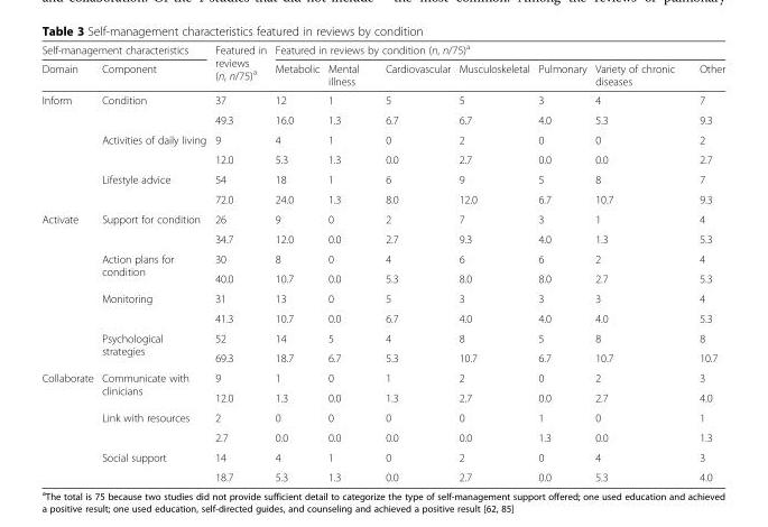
<table><thead><tr><td colspan="2">Self-management characteristics</td><td rowspan="2">Featured in reviews (n, n/75)<sup>a</sup></td><td colspan="7">Featured in reviews by condition (n, n/75)<sup>a</sup></td></tr><tr><td>Domain</td><td>Component</td><td>Metabolic</td><td>Mental illness</td><td>Cardiovascular</td><td>Musculoskeletal</td><td>Pulmonary</td><td>Variety of chronic diseases</td><td>Other</td></tr></thead><tbody><tr><td rowspan="6">Inform</td><td rowspan="2">Condition</td><td>37</td><td>12</td><td>1</td><td>5</td><td>5</td><td>3</td><td>4</td><td>7</td></tr><tr><td>49.3</td><td>16.0</td><td>1.3</td><td>6.7</td><td>6.7</td><td>4.0</td><td>5.3</td><td>9.3</td></tr><tr><td rowspan="2">Activities of daily living</td><td>9</td><td>4</td><td>1</td><td>0</td><td>2</td><td>0</td><td>0</td><td>2</td></tr><tr><td>12.0</td><td>5.3</td><td>1.3</td><td>0.0</td><td>2.7</td><td>0.0</td><td>0.0</td><td>2.7</td></tr><tr><td rowspan="2">Lifestyle advice</td><td>54</td><td>18</td><td>1</td><td>6</td><td>9</td><td>5</td><td>8</td><td>7</td></tr><tr><td>72.0</td><td>24.0</td><td>1.3</td><td>8.0</td><td>12.0</td><td>6.7</td><td>10.7</td><td>9.3</td></tr><tr><td rowspan="8">Activate</td><td rowspan="2">Support for condition</td><td>26</td><td>9</td><td>0</td><td>2</td><td>7</td><td>3</td><td>1</td><td>4</td></tr><tr><td>34.7</td><td>12.0</td><td>0.0</td><td>2.7</td><td>9.3</td><td>4.0</td><td>1.3</td><td>5.3</td></tr><tr><td rowspan="2">Action plans for condition</td><td>30</td><td>8</td><td>0</td><td>4</td><td>6</td><td>6</td><td>2</td><td>4</td></tr><tr><td>40.0</td><td>10.7</td><td>0.0</td><td>5.3</td><td>8.0</td><td>8.0</td><td>2.7</td><td>5.3</td></tr><tr><td rowspan="2">Monitoring</td><td>31</td><td>13</td><td>0</td><td>5</td><td>3</td><td>3</td><td>3</td><td>4</td></tr><tr><td>41.3</td><td>10.7</td><td>0.0</td><td>6.7</td><td>4.0</td><td>4.0</td><td>4.0</td><td>5.3</td></tr><tr><td rowspan="2">Psychological strategies</td><td>52</td><td>14</td><td>5</td><td>4</td><td>8</td><td>5</td><td>8</td><td>8</td></tr><tr><td>69.3</td><td>18.7</td><td>6.7</td><td>5.3</td><td>10.7</td><td>6.7</td><td>10.7</td><td>10.7</td></tr><tr><td rowspan="6">Collaborate</td><td rowspan="2">Communicate with clinicians</td><td>9</td><td>1</td><td>0</td><td>1</td><td>2</td><td>0</td><td>2</td><td>3</td></tr><tr><td>12.0</td><td>1.3</td><td>0.0</td><td>1.3</td><td>2.7</td><td>0.0</td><td>2.7</td><td>4.0</td></tr><tr><td rowspan="2">Link with resources</td><td>2</td><td>0</td><td>0</td><td>0</td><td>0</td><td>1</td><td>0</td><td>1</td></tr><tr><td>2.7</td><td>0.0</td><td>0.0</td><td>0.0</td><td>0.0</td><td>1.3</td><td>0.0</td><td>1.3</td></tr><tr><td rowspan="2">Social support</td><td>14</td><td>4</td><td>1</td><td>0</td><td>2</td><td>0</td><td>4</td><td>3</td></tr><tr><td>18.7</td><td>5.3</td><td>1.3</td><td>0.0</td><td>2.7</td><td>0.0</td><td>5.3</td><td>4.0</td></tr></tbody></table>